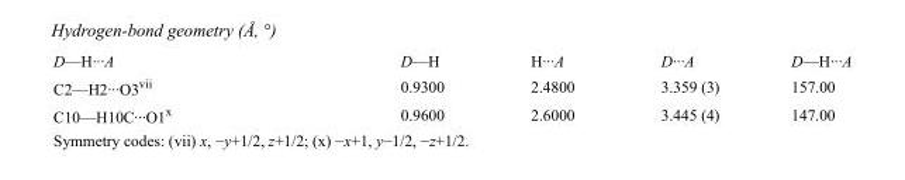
<table><tbody><tr><td>D—H···A</td><td>D—H</td><td>H···A</td><td>D···A</td><td>D—H···A</td></tr><tr><td>C2—H2···O3<sup>vii</sup></td><td>0.9300</td><td>2.4800</td><td>3.359 (3)</td><td>157.00</td></tr><tr><td>C10—H10C···O1<sup>x</sup></td><td>0.9600</td><td>2.6000</td><td>3.445 (4)</td><td>147.00</td></tr></tbody></table>